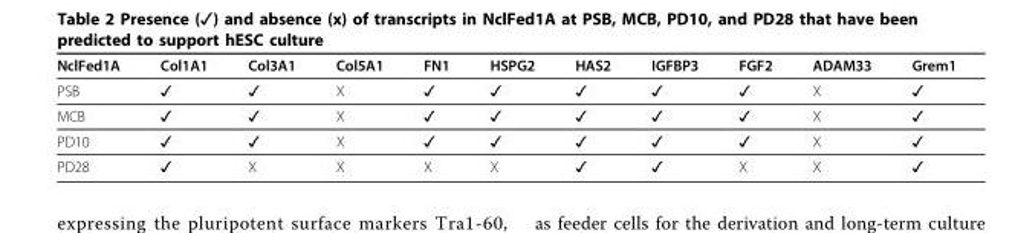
<table><thead><tr><td>NclFed1A</td><td>Col1A1</td><td>Col3A1</td><td>Col5A1</td><td>FN1</td><td>HSPG2</td><td>HAS2</td><td>IGFBP3</td><td>FGF2</td><td>ADAM33</td><td>Grem1</td></tr></thead><tbody><tr><td>PSB</td><td>✓</td><td>✓</td><td>X</td><td>✓</td><td>✓</td><td>✓</td><td>✓</td><td>✓</td><td>X</td><td>✓</td></tr><tr><td>MCB</td><td>✓</td><td>✓</td><td>X</td><td>✓</td><td>✓</td><td>✓</td><td>✓</td><td>✓</td><td>X</td><td>✓</td></tr><tr><td>PD10</td><td>✓</td><td>✓</td><td>X</td><td>✓</td><td>✓</td><td>✓</td><td>✓</td><td>✓</td><td>X</td><td>✓</td></tr><tr><td>PD28</td><td>✓</td><td>X</td><td>X</td><td>X</td><td>X</td><td>✓</td><td>✓</td><td>X</td><td>X</td><td>✓</td></tr></tbody></table>